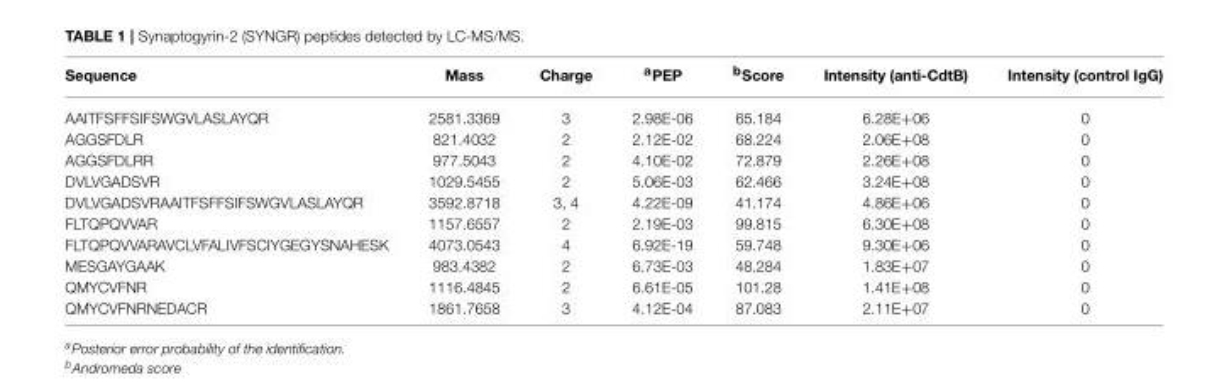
<table><thead><tr><td>Sequence</td><td>Mass</td><td>Charge</td><td><sup>a</sup>PEP</td><td><sup>b</sup>Score</td><td>Intensity (anti-CdtB)</td><td>Intensity (control IgG)</td></tr></thead><tbody><tr><td>AAITFSFFSIFSWGVLASLAYQR</td><td>2581.3369</td><td>3</td><td>2.98E-06</td><td>65.184</td><td>6.28E+06</td><td>0</td></tr><tr><td>AGGSFDLR</td><td>821.4032</td><td>2</td><td>2.12E-02</td><td>68.224</td><td>2.06E+08</td><td>0</td></tr><tr><td>AGGSFDLRR</td><td>977.5043</td><td>2</td><td>4.10E-02</td><td>72.879</td><td>2.26E+08</td><td>0</td></tr><tr><td>DVLVGADSVR</td><td>1029.5455</td><td>2</td><td>5.06E-03</td><td>62.466</td><td>3.24E+08</td><td>0</td></tr><tr><td>DVLVGADSVRAAITFSFFSIFSWGVLASLAYQR</td><td>3592.8718</td><td>3, 4</td><td>4.22E-09</td><td>41.174</td><td>4.86E+06</td><td>0</td></tr><tr><td>FLTQPQVVAR</td><td>1157.6557</td><td>2</td><td>2.19E-03</td><td>99.815</td><td>6.30E+08</td><td>0</td></tr><tr><td>FLTQPQVVARAVCLVFALIVFSCIYGEGYSNAHESK</td><td>4073.0543</td><td>4</td><td>6.92E-19</td><td>59.748</td><td>9.30E+06</td><td>0</td></tr><tr><td>MESGAYGAAK</td><td>983.4382</td><td>2</td><td>6.73E-03</td><td>48.284</td><td>1.83E+07</td><td>0</td></tr><tr><td>QMYCVFNR</td><td>1116.4845</td><td>2</td><td>6.61E-05</td><td>101.28</td><td>1.41E+08</td><td>0</td></tr><tr><td>QMYCVFNRNEDACR</td><td>1861.7658</td><td>3</td><td>4.12E-04</td><td>87.083</td><td>2.11E+07</td><td>0</td></tr></tbody></table>